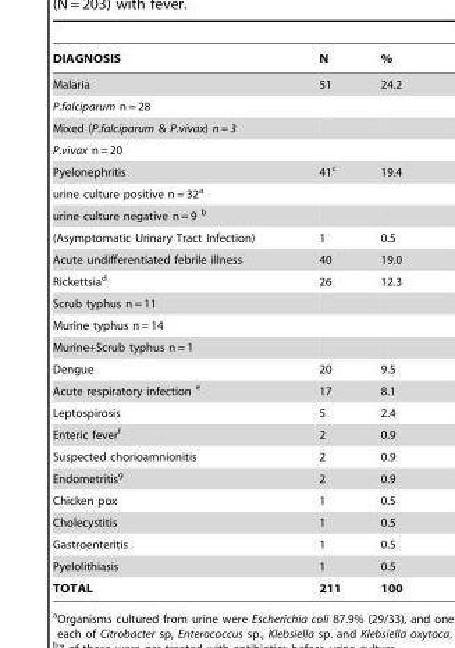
<table><thead><tr><td>DIAGNOSIS</td><td>N</td><td>%</td></tr></thead><tbody><tr><td>Malaria</td><td>51</td><td>24.2</td></tr><tr><td colspan="3">P.falciparum n = 28</td></tr><tr><td colspan="3">Mixed (P.falciparum &amp; P.vivax) n = 3</td></tr><tr><td colspan="3">P.vivax n = 20</td></tr><tr><td>Pyelonephritis</td><td>41<sup>c</sup></td><td>19.4</td></tr><tr><td colspan="3">urine culture positive n = 32<sup>a</sup></td></tr><tr><td colspan="3">urine culture negative n = 9 b</td></tr><tr><td>(Asymptomatic Urinary Tract Infection)</td><td>1</td><td>0.5</td></tr><tr><td>Acute undifferentiated febrile illness</td><td>40</td><td>19.0</td></tr><tr><td>Rickettsia<sup>d</sup></td><td>26</td><td>12.3</td></tr><tr><td colspan="3">Scrub typhus n = 11</td></tr><tr><td colspan="3">Murine typhus n = 14</td></tr><tr><td colspan="3">Murine+Scrub typhus n = 1</td></tr><tr><td>Dengue</td><td>20</td><td>9.5</td></tr><tr><td>Acute respiratory infection e</td><td>17</td><td>8.1</td></tr><tr><td>Leptospirosis</td><td>5</td><td>2.4</td></tr><tr><td>Enteric fever<sup>f</sup></td><td>2</td><td>0.9</td></tr><tr><td>Suspected chorioamnionitis</td><td>2</td><td>0.9</td></tr><tr><td>Endometritis<sup>g</sup></td><td>2</td><td>0.9</td></tr><tr><td>Chicken pox</td><td>1</td><td>0.5</td></tr><tr><td>Cholecystitis</td><td>1</td><td>0.5</td></tr><tr><td>Gastroenteritis</td><td>1</td><td>0.5</td></tr><tr><td>Pyelolithiasis</td><td>1</td><td>0.5</td></tr><tr><td>TOTAL</td><td>211</td><td>100</td></tr></tbody></table>